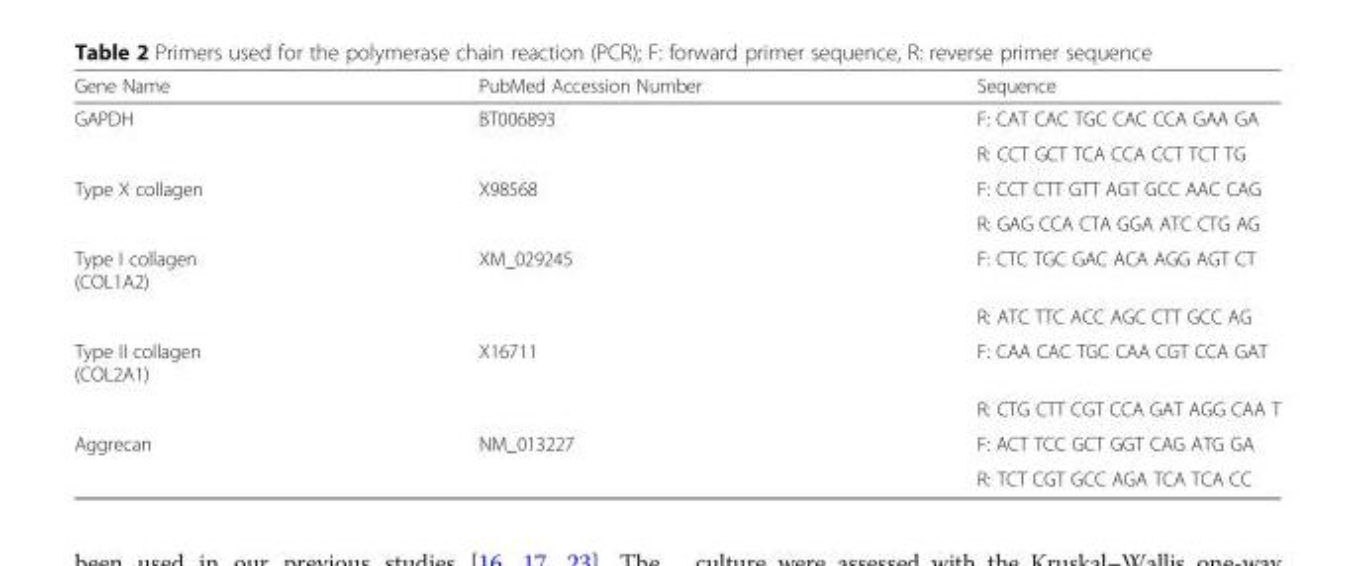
<table><thead><tr><td>Gene Name</td><td>PubMed Accession Number</td><td>Sequence</td></tr></thead><tbody><tr><td rowspan="2">GAPDH</td><td>BT006893</td><td>F: CAT CAC TGC CAC CCA GAA GA</td></tr><tr><td></td><td>R: CCT GCT TCA CCA CCT TCT TG</td></tr><tr><td rowspan="2">Type X collagen</td><td>X98568</td><td>F: CCT CTT GTT AGT GCC AAC CAG</td></tr><tr><td></td><td>R: GAG CCA CTA GGA ATC CTG AG</td></tr><tr><td rowspan="2">Type I collagen (COL1A2)</td><td>XM_029245</td><td>F: CTC TGC GAC ACA AGG AGT CT</td></tr><tr><td></td><td>R: ATC TTC ACC AGC CTT GCC AG</td></tr><tr><td rowspan="2">Type II collagen (COL2A1)</td><td>X16711</td><td>F: CAA CAC TGC CAA CGT CCA GAT</td></tr><tr><td></td><td>R: CTG CTT CGT CCA GAT AGG CAA T</td></tr><tr><td rowspan="2">Aggrecan</td><td>NM_013227</td><td>F: ACT TCC GCT GGT CAG ATG GA</td></tr><tr><td></td><td>R: TCT CGT GCC AGA TCA TCA CC</td></tr></tbody></table>